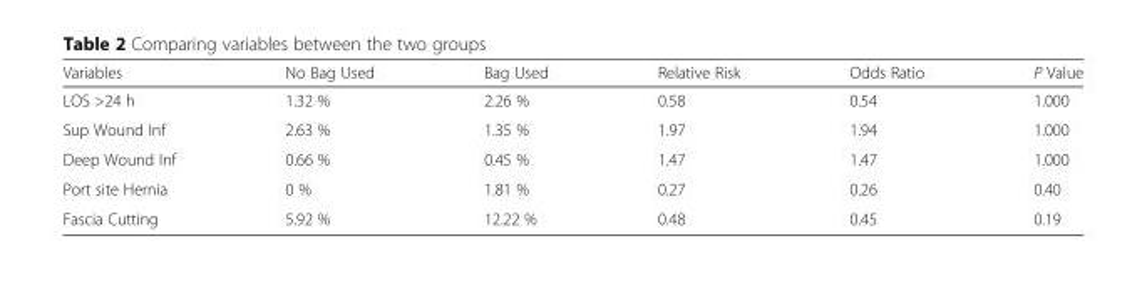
<table><thead><tr><td>Variables</td><td>No Bag Used</td><td>Bag Used</td><td>Relative Risk</td><td>Odds Ratio</td><td>P Value</td></tr></thead><tbody><tr><td>LOS &gt;24 h</td><td>1.32 %</td><td>2.26 %</td><td>0.58</td><td>0.54</td><td>1.000</td></tr><tr><td>Sup Wound Inf</td><td>2.63 %</td><td>1.35 %</td><td>1.97</td><td>1.94</td><td>1.000</td></tr><tr><td>Deep Wound Inf</td><td>0.66 %</td><td>0.45 %</td><td>1.47</td><td>1.47</td><td>1.000</td></tr><tr><td>Port site Hernia</td><td>0 %</td><td>1.81 %</td><td>0.27</td><td>0.26</td><td>0.40</td></tr><tr><td>Fascia Cutting</td><td>5.92 %</td><td>12.22 %</td><td>0.48</td><td>0.45</td><td>0.19</td></tr></tbody></table>